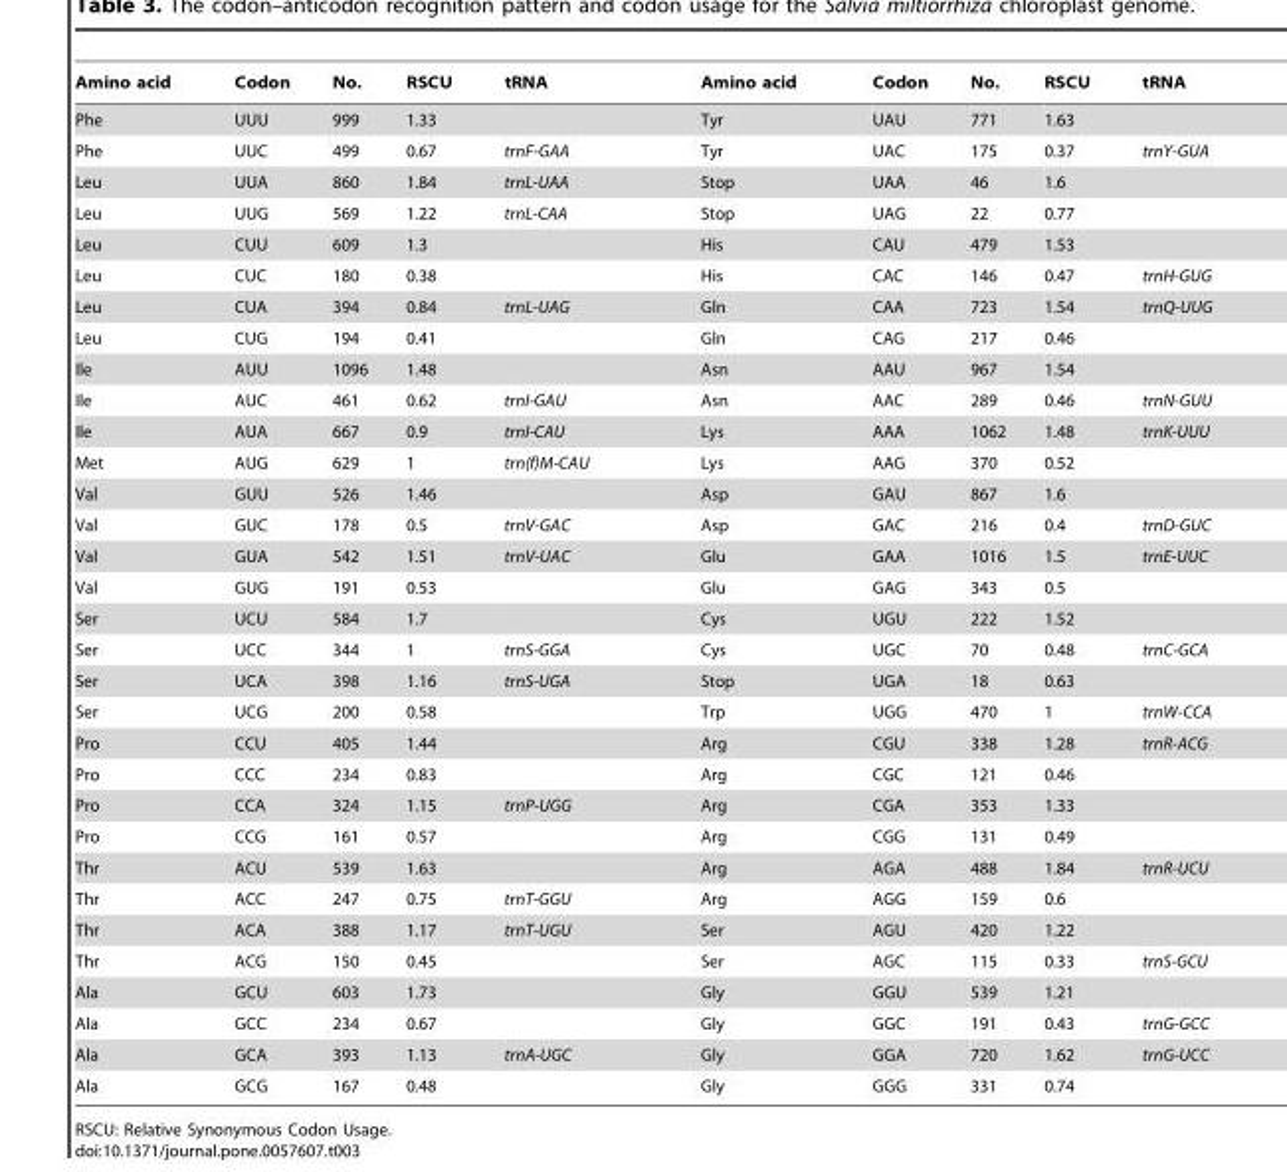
<table><thead><tr><td>Amino acid</td><td>Codon</td><td>No.</td><td>RSCU</td><td>tRNA</td><td>Amino acid</td><td>Codon</td><td>No.</td><td>RSCU</td><td>tRNA</td></tr></thead><tbody><tr><td>Phe</td><td>UUU</td><td>999</td><td>1.33</td><td></td><td>Tyr</td><td>UAU</td><td>771</td><td>1.63</td><td></td></tr><tr><td>Phe</td><td>UUC</td><td>499</td><td>0.67</td><td>trnF-GAA</td><td>Tyr</td><td>UAC</td><td>175</td><td>0.37</td><td>trnY-GUA</td></tr><tr><td>Leu</td><td>UUA</td><td>860</td><td>1.84</td><td>trnL-UAA</td><td>Stop</td><td>UAA</td><td>46</td><td>1.6</td><td></td></tr><tr><td>Leu</td><td>UUG</td><td>569</td><td>1.22</td><td>trnL-CAA</td><td>Stop</td><td>UAG</td><td>22</td><td>0.77</td><td></td></tr><tr><td>Leu</td><td>CUU</td><td>609</td><td>1.3</td><td></td><td>His</td><td>CAU</td><td>479</td><td>1.53</td><td></td></tr><tr><td>Leu</td><td>CUC</td><td>180</td><td>0.38</td><td></td><td>His</td><td>CAC</td><td>146</td><td>0.47</td><td>trnH-GUG</td></tr><tr><td>Leu</td><td>CUA</td><td>394</td><td>0.84</td><td>trnL-UAG</td><td>Gln</td><td>CAA</td><td>723</td><td>1.54</td><td>trnQ-UUG</td></tr><tr><td>Leu</td><td>CUG</td><td>194</td><td>0.41</td><td></td><td>Gln</td><td>CAG</td><td>217</td><td>0.46</td><td></td></tr><tr><td>Ile</td><td>AUU</td><td>1096</td><td>1.48</td><td></td><td>Asn</td><td>AAU</td><td>967</td><td>1.54</td><td></td></tr><tr><td>Ile</td><td>AUC</td><td>461</td><td>0.62</td><td>trnI-GAU</td><td>Asn</td><td>AAC</td><td>289</td><td>0.46</td><td>trnN-GUU</td></tr><tr><td>Ile</td><td>AUA</td><td>667</td><td>0.9</td><td>trnI-CAU</td><td>Lys</td><td>AAA</td><td>1062</td><td>1.48</td><td>trnK-UUU</td></tr><tr><td>Met</td><td>AUG</td><td>629</td><td>1</td><td>trn(f)M-CAU</td><td>Lys</td><td>AAG</td><td>370</td><td>0.52</td><td></td></tr><tr><td>Val</td><td>GUU</td><td>526</td><td>1.46</td><td></td><td>Asp</td><td>GAU</td><td>867</td><td>1.6</td><td></td></tr><tr><td>Val</td><td>GUC</td><td>178</td><td>0.5</td><td>trnV-GAC</td><td>Asp</td><td>GAC</td><td>216</td><td>0.4</td><td>trnD-GUC</td></tr><tr><td>Val</td><td>GUA</td><td>542</td><td>1.51</td><td>trnV-UAC</td><td>Glu</td><td>GAA</td><td>1016</td><td>1.5</td><td>trnE-UUC</td></tr><tr><td>Val</td><td>GUG</td><td>191</td><td>0.53</td><td></td><td>Glu</td><td>GAG</td><td>343</td><td>0.5</td><td></td></tr><tr><td>Ser</td><td>UCU</td><td>584</td><td>1.7</td><td></td><td>Cys</td><td>UGU</td><td>222</td><td>1.52</td><td></td></tr><tr><td>Ser</td><td>UCC</td><td>344</td><td>1</td><td>trnS-GGA</td><td>Cys</td><td>UGC</td><td>70</td><td>0.48</td><td>trnC-GCA</td></tr><tr><td>Ser</td><td>UCA</td><td>398</td><td>1.16</td><td>trnS-UGA</td><td>Stop</td><td>UGA</td><td>18</td><td>0.63</td><td></td></tr><tr><td>Ser</td><td>UCG</td><td>200</td><td>0.58</td><td></td><td>Trp</td><td>UGG</td><td>470</td><td>1</td><td>trnW-CCA</td></tr><tr><td>Pro</td><td>CCU</td><td>405</td><td>1.44</td><td></td><td>Arg</td><td>CGU</td><td>338</td><td>1.28</td><td>trnR-ACG</td></tr><tr><td>Pro</td><td>CCC</td><td>234</td><td>0.83</td><td></td><td>Arg</td><td>CGC</td><td>121</td><td>0.46</td><td></td></tr><tr><td>Pro</td><td>CCA</td><td>324</td><td>1.15</td><td>trnP-UGG</td><td>Arg</td><td>CGA</td><td>353</td><td>1.33</td><td></td></tr><tr><td>Pro</td><td>CCG</td><td>161</td><td>0.57</td><td></td><td>Arg</td><td>CGG</td><td>131</td><td>0.49</td><td></td></tr><tr><td>Thr</td><td>ACU</td><td>539</td><td>1.63</td><td></td><td>Arg</td><td>AGA</td><td>488</td><td>1.84</td><td>trnR-UCU</td></tr><tr><td>Thr</td><td>ACC</td><td>247</td><td>0.75</td><td>trnT-GGU</td><td>Arg</td><td>AGG</td><td>159</td><td>0.6</td><td></td></tr><tr><td>Thr</td><td>ACA</td><td>388</td><td>1.17</td><td>trnT-UGU</td><td>Ser</td><td>AGU</td><td>420</td><td>1.22</td><td></td></tr><tr><td>Thr</td><td>ACG</td><td>150</td><td>0.45</td><td></td><td>Ser</td><td>AGC</td><td>115</td><td>0.33</td><td>trnS-GCU</td></tr><tr><td>Ala</td><td>GCU</td><td>603</td><td>1.73</td><td></td><td>Gly</td><td>GGU</td><td>539</td><td>1.21</td><td></td></tr><tr><td>Ala</td><td>GCC</td><td>234</td><td>0.67</td><td></td><td>Gly</td><td>GGC</td><td>191</td><td>0.43</td><td>trnG-GCC</td></tr><tr><td>Ala</td><td>GCA</td><td>393</td><td>1.13</td><td>trnA-UGC</td><td>Gly</td><td>GGA</td><td>720</td><td>1.62</td><td>trnG-UCC</td></tr><tr><td>Ala</td><td>GCG</td><td>167</td><td>0.48</td><td></td><td>Gly</td><td>GGG</td><td>331</td><td>0.74</td><td></td></tr></tbody></table>